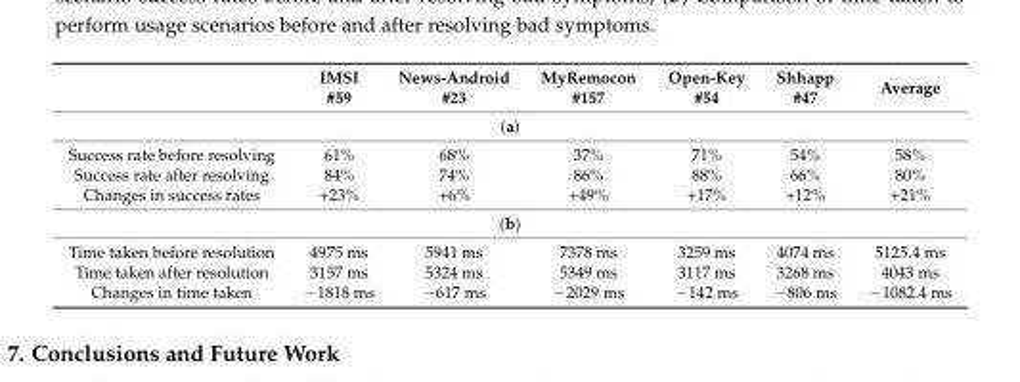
<table><thead><tr><td></td><td>IMSI #59</td><td>News-Android #23</td><td>MyRemocon #157</td><td>Open-Key #54</td><td>Shhapp #47</td><td>Average</td></tr></thead><tbody><tr><td colspan="7">(a)</td></tr><tr><td>Success rate before resolving</td><td>61%</td><td>68%</td><td>37%</td><td>71%</td><td>54%</td><td>58%</td></tr><tr><td>Success rate after resolving</td><td>84%</td><td>74%</td><td>86%</td><td>88%</td><td>66%</td><td>80%</td></tr><tr><td>Changes in success rates</td><td>+23%</td><td>+6%</td><td>+49%</td><td>+17%</td><td>+12%</td><td>+21%</td></tr><tr><td colspan="7">(b)</td></tr><tr><td>Time taken before resolution</td><td>4975 ms</td><td>5941 ms</td><td>7378 ms</td><td>3259 ms</td><td>4074 ms</td><td>5125.4 ms</td></tr><tr><td>Time taken after resolution</td><td>3157 ms</td><td>5324 ms</td><td>5349 ms</td><td>3117 ms</td><td>3268 ms</td><td>4043 ms</td></tr><tr><td>Changes in time taken</td><td>−1818 ms</td><td>−617 ms</td><td>−2029 ms</td><td>−142 ms</td><td>−806 ms</td><td>−1082.4 ms</td></tr></tbody></table>